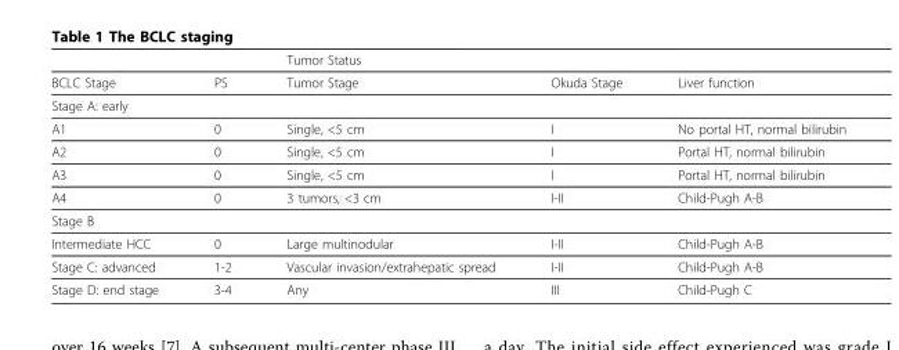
<table><thead><tr><td></td><td></td><td>Tumor Status</td><td></td><td></td></tr></thead><tbody><tr><td>BCLC Stage</td><td>PS</td><td>Tumor Stage</td><td>Okuda Stage</td><td>Liver function</td></tr><tr><td colspan="5">Stage A: early</td></tr><tr><td>A1</td><td>0</td><td>Single, &lt;5 cm</td><td>I</td><td>No portal HT, normal bilirubin</td></tr><tr><td>A2</td><td>0</td><td>Single, &lt;5 cm</td><td>I</td><td>Portal HT, normal bilirubin</td></tr><tr><td>A3</td><td>0</td><td>Single, &lt;5 cm</td><td>I</td><td>Portal HT, normal bilirubin</td></tr><tr><td>A4</td><td>0</td><td>3 tumors, &lt;3 cm</td><td>I-II</td><td>Child-Pugh A-B</td></tr><tr><td colspan="5">Stage B</td></tr><tr><td>Intermediate HCC</td><td>0</td><td>Large multinodular</td><td>I-II</td><td>Child-Pugh A-B</td></tr><tr><td>Stage C: advanced</td><td>1-2</td><td>Vascular invasion/extrahepatic spread</td><td>I-II</td><td>Child-Pugh A-B</td></tr><tr><td>Stage D: end stage</td><td>3-4</td><td>Any</td><td>III</td><td>Child-Pugh C</td></tr></tbody></table>